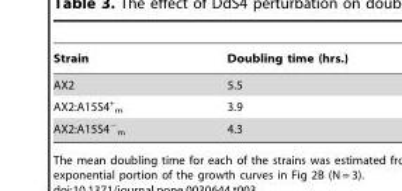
<table><thead><tr><td>Strain</td><td>Doubling time (hrs.)</td></tr></thead><tbody><tr><td>AX2</td><td>5.5</td></tr><tr><td>AX2:A15S4<sup>+</sup> <sub>m</sub></td><td>3.9</td></tr><tr><td>AX2:A15S4<sup>−</sup> <sub>m</sub></td><td>4.3</td></tr></tbody></table>